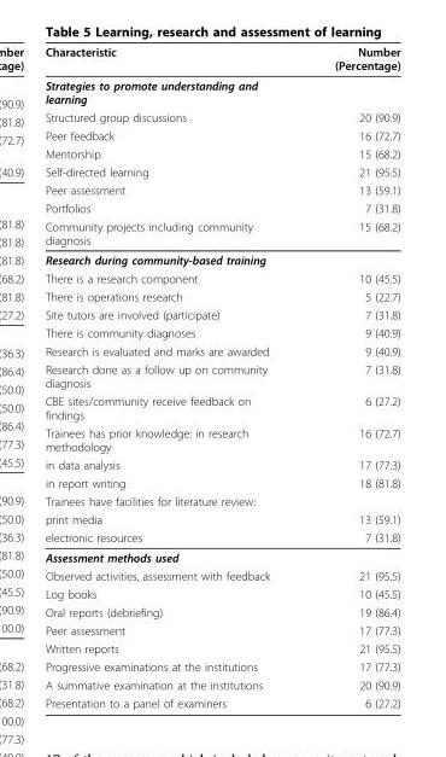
<table><thead><tr><td>Characteristic</td><td>Number (Percentage)</td></tr></thead><tbody><tr><td colspan="2">Strategies to promote understanding and learning</td></tr><tr><td>Structured group discussions</td><td>20 (90.9)</td></tr><tr><td>Peer feedback</td><td>16 (72.7)</td></tr><tr><td>Mentorship</td><td>15 (68.2)</td></tr><tr><td>Self-directed learning</td><td>21 (95.5)</td></tr><tr><td>Peer assessment</td><td>13 (59.1)</td></tr><tr><td>Portfolios</td><td>7 (31.8)</td></tr><tr><td>Community projects including community diagnosis</td><td>15 (68.2)</td></tr><tr><td colspan="2">Research during community-based training</td></tr><tr><td>There is a research component</td><td>10 (45.5)</td></tr><tr><td>There is operations research</td><td>5 (22.7)</td></tr><tr><td>Site tutors are involved (participate)</td><td>7 (31.8)</td></tr><tr><td>There is community diagnoses</td><td>9 (40.9)</td></tr><tr><td>Research is evaluated and marks are awarded</td><td>9 (40.9)</td></tr><tr><td>Research done as a follow up on community diagnosis</td><td>7 (31.8)</td></tr><tr><td>CBE sites/community receive feedback on findings</td><td>6 (27.2)</td></tr><tr><td>Trainees has prior knowledge: in research methodology</td><td>16 (72.7)</td></tr><tr><td>in data analysis</td><td>17 (77.3)</td></tr><tr><td>in report writing</td><td>18 (81.8)</td></tr><tr><td colspan="2">Trainees have facilities for literature review:</td></tr><tr><td>print media</td><td>13 (59.1)</td></tr><tr><td>electronic resources</td><td>7 (31.8)</td></tr><tr><td colspan="2">Assessment methods used</td></tr><tr><td>Observed activities, assessment with feedback</td><td>21 (95.5)</td></tr><tr><td>Log books</td><td>10 (45.5)</td></tr><tr><td>Oral reports (debriefing)</td><td>19 (86.4)</td></tr><tr><td>Peer assessment</td><td>17 (77.3)</td></tr><tr><td>Written reports</td><td>21 (95.5)</td></tr><tr><td>Progressive examinations at the institutions</td><td>17 (77.3)</td></tr><tr><td>A summative examination at the institutions</td><td>20 (90.9)</td></tr><tr><td>Presentation to a panel of examiners</td><td>6 (27.2)</td></tr></tbody></table>